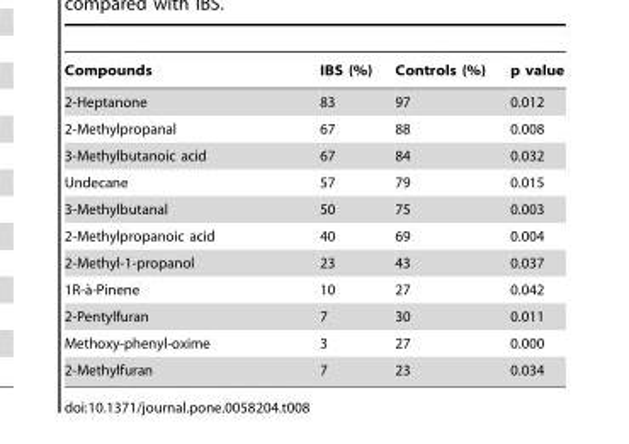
<table><thead><tr><td>Compounds</td><td>IBS (%)</td><td>Controls (%)</td><td>p value</td></tr></thead><tbody><tr><td>2-Heptanone</td><td>83</td><td>97</td><td>0.012</td></tr><tr><td>2-Methylpropanal</td><td>67</td><td>88</td><td>0.008</td></tr><tr><td>3-Methylbutanoic acid</td><td>67</td><td>84</td><td>0.032</td></tr><tr><td>Undecane</td><td>57</td><td>79</td><td>0.015</td></tr><tr><td>3-Methylbutanal</td><td>50</td><td>75</td><td>0.003</td></tr><tr><td>2-Methylpropanoic acid</td><td>40</td><td>69</td><td>0.004</td></tr><tr><td>2-Methyl-1-propanol</td><td>23</td><td>43</td><td>0.037</td></tr><tr><td>1R-a`-Pinene</td><td>10</td><td>27</td><td>0.042</td></tr><tr><td>2-Pentylfuran</td><td>7</td><td>30</td><td>0.011</td></tr><tr><td>Methoxy-phenyl-oxime</td><td>3</td><td>27</td><td>0.000</td></tr><tr><td>2-Methylfuran</td><td>7</td><td>23</td><td>0.034</td></tr></tbody></table>